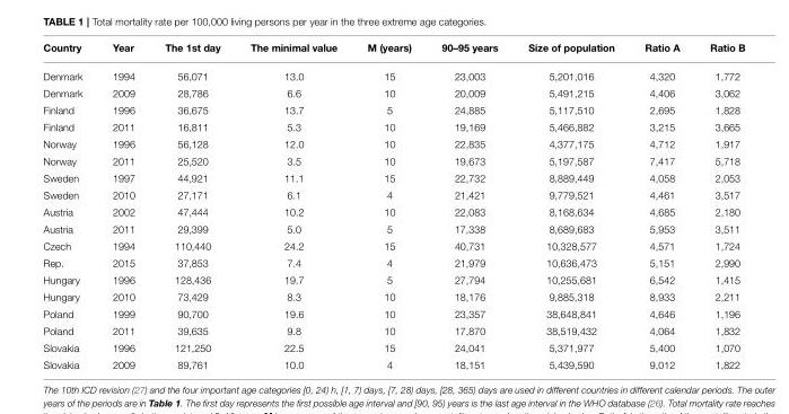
<table><thead><tr><td>Country</td><td>Year</td><td>The 1st day</td><td>The minimal value</td><td>M (years)</td><td>90–95 years</td><td>Size of population</td><td>Ratio A</td><td>Ratio B</td></tr></thead><tbody><tr><td>Denmark</td><td>1994</td><td>56,071</td><td>13.0</td><td>15</td><td>23,003</td><td>5,201,016</td><td>4,320</td><td>1,772</td></tr><tr><td>Denmark</td><td>2009</td><td>28,786</td><td>6.6</td><td>10</td><td>20,009</td><td>5,491,215</td><td>4,406</td><td>3,062</td></tr><tr><td>Finland</td><td>1996</td><td>36,675</td><td>13.7</td><td>5</td><td>24,885</td><td>5,117,510</td><td>2,695</td><td>1,828</td></tr><tr><td>Finland</td><td>2011</td><td>16,811</td><td>5.3</td><td>10</td><td>19,169</td><td>5,466,882</td><td>3,215</td><td>3,665</td></tr><tr><td>Norway</td><td>1996</td><td>56,128</td><td>12.0</td><td>10</td><td>22,835</td><td>4,377,175</td><td>4,712</td><td>1,917</td></tr><tr><td>Norway</td><td>2011</td><td>25,520</td><td>3.5</td><td>10</td><td>19,673</td><td>5,197,587</td><td>7,417</td><td>5,718</td></tr><tr><td>Sweden</td><td>1997</td><td>44,921</td><td>11.1</td><td>15</td><td>22,732</td><td>8,889,449</td><td>4,058</td><td>2,053</td></tr><tr><td>Sweden</td><td>2010</td><td>27,171</td><td>6.1</td><td>4</td><td>21,421</td><td>9,779,521</td><td>4,461</td><td>3,517</td></tr><tr><td>Austria</td><td>2002</td><td>47,444</td><td>10.2</td><td>10</td><td>22,083</td><td>8,168,634</td><td>4,685</td><td>2,180</td></tr><tr><td>Austria</td><td>2011</td><td>29,399</td><td>5.0</td><td>5</td><td>17,338</td><td>8,689,683</td><td>5,953</td><td>3,511</td></tr><tr><td>Czech</td><td>1994</td><td>110,440</td><td>24.2</td><td>15</td><td>40,731</td><td>10,328,577</td><td>4,571</td><td>1,724</td></tr><tr><td>Rep.</td><td>2015</td><td>37,853</td><td>7.4</td><td>4</td><td>21,979</td><td>10,636,473</td><td>5,151</td><td>2,990</td></tr><tr><td>Hungary</td><td>1996</td><td>128,436</td><td>19.7</td><td>5</td><td>27,794</td><td>10,255,681</td><td>6,542</td><td>1,415</td></tr><tr><td>Hungary</td><td>2010</td><td>73,429</td><td>8.3</td><td>10</td><td>18,176</td><td>9,885,318</td><td>8,933</td><td>2,211</td></tr><tr><td>Poland</td><td>1999</td><td>90,700</td><td>19.6</td><td>10</td><td>23,357</td><td>38,648,841</td><td>4,646</td><td>1,196</td></tr><tr><td>Poland</td><td>2011</td><td>39,635</td><td>9.8</td><td>10</td><td>17,870</td><td>38,519,432</td><td>4,064</td><td>1,832</td></tr><tr><td>Slovakia</td><td>1996</td><td>121,250</td><td>22.5</td><td>15</td><td>24,041</td><td>5,371,977</td><td>5,400</td><td>1,070</td></tr><tr><td>Slovakia</td><td>2009</td><td>89,761</td><td>10.0</td><td>4</td><td>18,151</td><td>5,439,590</td><td>9,012</td><td>1,822</td></tr></tbody></table>